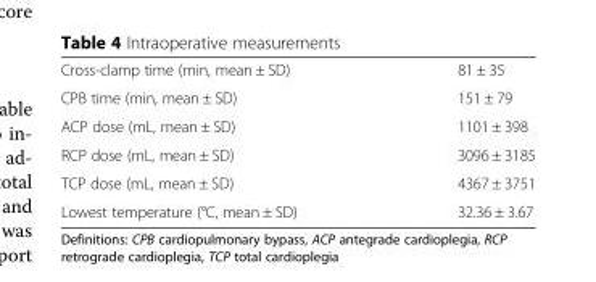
<table><tbody><tr><td>Cross-clamp time (min, mean ± SD)</td><td>81 ± 35</td></tr><tr><td>CPB time (min, mean ± SD)</td><td>151 ± 79</td></tr><tr><td>ACP dose (mL, mean ± SD)</td><td>1101 ± 398</td></tr><tr><td>RCP dose (mL, mean ± SD)</td><td>3096 ± 3185</td></tr><tr><td>TCP dose (mL, mean ± SD)</td><td>4367 ± 3751</td></tr><tr><td>Lowest temperature (°C, mean ± SD)</td><td>32.36 ± 3.67</td></tr></tbody></table>